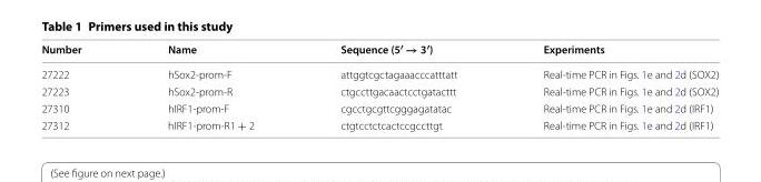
<table><thead><tr><td>Number</td><td>Name</td><td>Sequence (5′ → 3′)</td><td>Experiments</td></tr></thead><tbody><tr><td>27222</td><td>hSox2-prom-F</td><td>attggtcgctagaaacccatttatt</td><td>Real-time PCR in Figs. 1e and 2d (SOX2)</td></tr><tr><td>27223</td><td>hSox2-prom-R</td><td>ctgccttgacaactcctgatacttt</td><td>Real-time PCR in Figs. 1e and 2d (SOX2)</td></tr><tr><td>27310</td><td>hIRF1-prom-F</td><td>cgcctgcgttcgggagatatac</td><td>Real-time PCR in Figs. 1e and 2d (IRF1)</td></tr><tr><td>27312</td><td>hIRF1-prom-R1 + 2</td><td>ctgtcctctcactccgccttgt</td><td>Real-time PCR in Figs. 1e and 2d (IRF1)</td></tr></tbody></table>